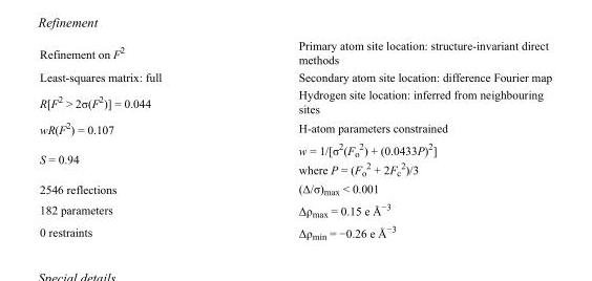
<table><tbody><tr><td>Refinement on F<sup>2</sup></td><td>Primary atom site location: structure-invariant direct methods</td></tr><tr><td>Least-squares matrix: full</td><td>Secondary atom site location: difference Fourier map</td></tr><tr><td>R[F<sup>2</sup> &gt; 2σ(F<sup>2</sup>)] = 0.044</td><td>Hydrogen site location: inferred from neighbouring sites</td></tr><tr><td>wR(F<sup>2</sup>) = 0.107</td><td>H-atom parameters constrained</td></tr><tr><td>S = 0.94</td><td>w = 1/[σ<sup>2</sup>(F<sub>o</sub> <sup>2</sup>) + (0.0433P)<sup>2</sup>] where P = (F<sub>o</sub> <sup>2</sup> + 2F<sub>c</sub> <sup>2</sup>)/3</td></tr><tr><td>2546 reflections</td><td>(Δ/σ)<sub>max</sub> &lt; 0.001</td></tr><tr><td>182 parameters</td><td>Δρ<sub>max</sub> = 0.15 e Å<sup>−3</sup></td></tr><tr><td>0 restraints</td><td>Δρ<sub>min</sub> = −0.26 e Å<sup>−3</sup></td></tr></tbody></table>